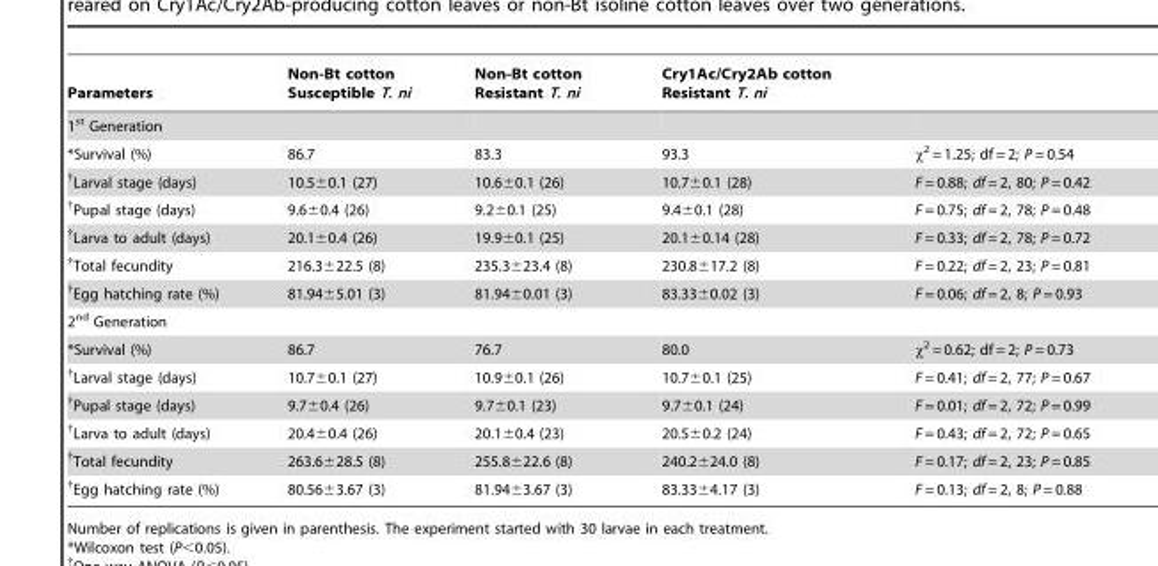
<table><thead><tr><td>Parameters</td><td>Non-Bt cotton Susceptible T. ni</td><td>Non-Bt cotton Resistant T. ni</td><td>Cry1Ac/Cry2Ab cotton Resistant T. ni</td><td></td></tr></thead><tbody><tr><td colspan="5">1<sup>st</sup> Generation</td></tr><tr><td>*Survival (%)</td><td>86.7</td><td>83.3</td><td>93.3</td><td>χ<sup>2</sup> = 1.25; df = 2; P = 0.54</td></tr><tr><td>†Larval stage (days)</td><td>10.5±0.1 (27)</td><td>10.6±0.1 (26)</td><td>10.7±0.1 (28)</td><td>F = 0.88; df = 2, 80; P = 0.42</td></tr><tr><td>†Pupal stage (days)</td><td>9.6±0.4 (26)</td><td>9.2±0.1 (25)</td><td>9.4±0.1 (28)</td><td>F = 0.75; df = 2, 78; P = 0.48</td></tr><tr><td>†Larva to adult (days)</td><td>20.1±0.4 (26)</td><td>19.9±0.1 (25)</td><td>20.1±0.14 (28)</td><td>F = 0.33; df = 2, 78; P = 0.72</td></tr><tr><td>†Total fecundity</td><td>216.3±22.5 (8)</td><td>235.3±23.4 (8)</td><td>230.8±17.2 (8)</td><td>F = 0.22; df = 2, 23; P = 0.81</td></tr><tr><td>†Egg hatching rate (%)</td><td>81.94±5.01 (3)</td><td>81.94±0.01 (3)</td><td>83.33±0.02 (3)</td><td>F = 0.06; df = 2, 8; P = 0.93</td></tr><tr><td colspan="5">2<sup>nd</sup> Generation</td></tr><tr><td>*Survival (%)</td><td>86.7</td><td>76.7</td><td>80.0</td><td>χ<sup>2</sup> = 0.62; df = 2; P = 0.73</td></tr><tr><td>†Larval stage (days)</td><td>10.7±0.1 (27)</td><td>10.9±0.1 (26)</td><td>10.7±0.1 (25)</td><td>F = 0.41; df = 2, 77; P = 0.67</td></tr><tr><td>†Pupal stage (days)</td><td>9.7±0.4 (26)</td><td>9.7±0.1 (23)</td><td>9.7±0.1 (24)</td><td>F = 0.01; df = 2, 72; P = 0.99</td></tr><tr><td>†Larva to adult (days)</td><td>20.4±0.4 (26)</td><td>20.1±0.4 (23)</td><td>20.5±0.2 (24)</td><td>F = 0.43; df = 2, 72; P = 0.65</td></tr><tr><td>†Total fecundity</td><td>263.6±28.5 (8)</td><td>255.8±22.6 (8)</td><td>240.2±24.0 (8)</td><td>F = 0.17; df = 2, 23; P = 0.85</td></tr><tr><td>†Egg hatching rate (%)</td><td>80.56±3.67 (3)</td><td>81.94±3.67 (3)</td><td>83.33±4.17 (3)</td><td>F = 0.13; df = 2, 8; P = 0.88</td></tr></tbody></table>